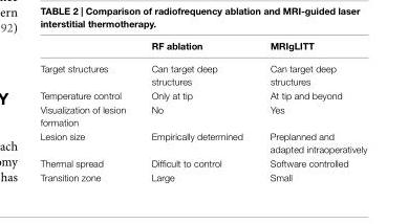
<table><thead><tr><td></td><td>RF ablation</td><td>MRigLiTT</td></tr></thead><tbody><tr><td>Target structures</td><td>Can target deep structures</td><td>Can target deep structures</td></tr><tr><td>Temperature control</td><td>Only at tip</td><td>At tip and beyond</td></tr><tr><td>Visualization of lesion formation</td><td>No</td><td>Yes</td></tr><tr><td>Lesion size</td><td>Empirically determined</td><td>Preplanned and adapted intraoperatively</td></tr><tr><td>Thermal spread</td><td>Difficult to control</td><td>Software controlled</td></tr><tr><td>Transition zone</td><td>Large</td><td>Small</td></tr></tbody></table>